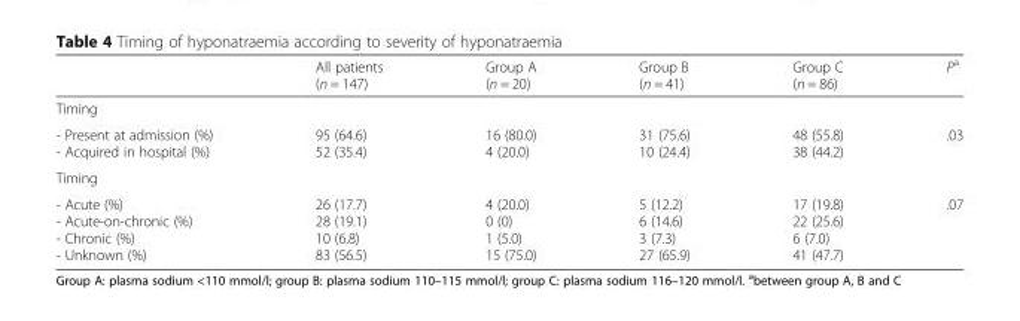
<table><thead><tr><td></td><td>All patients (n = 147)</td><td>Group A (n = 20)</td><td>Group B (n = 41)</td><td>Group C (n = 86)</td><td>P<sup>a</sup></td></tr></thead><tbody><tr><td colspan="6">Timing</td></tr><tr><td>- Present at admission (%) - Acquired in hospital (%)</td><td>95 (64.6) 52 (35.4)</td><td>16 (80.0) 4 (20.0)</td><td>31 (75.6) 10 (24.4)</td><td>48 (55.8) 38 (44.2)</td><td>.03</td></tr><tr><td colspan="6">Timing</td></tr><tr><td>- Acute (%) - Acute-on-chronic (%) - Chronic (%) - Unknown (%)</td><td>26 (17.7) 28 (19.1) 10 (6.8) 83 (56.5)</td><td>4 (20.0) 0 (0) 1 (5.0) 15 (75.0)</td><td>5 (12.2) 6 (14.6) 3 (7.3) 27 (65.9)</td><td>17 (19.8) 22 (25.6) 6 (7.0) 41 (47.7)</td><td>.07</td></tr></tbody></table>